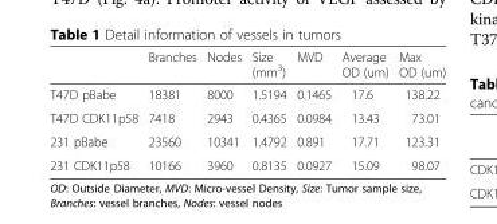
<table><thead><tr><td></td><td>Branches</td><td>Nodes</td><td>Size (mm<sup>3</sup>)</td><td>MVD</td><td>Average OD (um)</td><td>Max OD (um)</td></tr></thead><tbody><tr><td>T47D pBabe</td><td>18381</td><td>8000</td><td>1.5194</td><td>0.1465</td><td>17.6</td><td>138.22</td></tr><tr><td>T47D CDK11p58</td><td>7418</td><td>2943</td><td>0.4365</td><td>0.0984</td><td>13.43</td><td>73.01</td></tr><tr><td>231 pBabe</td><td>23560</td><td>10341</td><td>1.4792</td><td>0.891</td><td>17.71</td><td>123.31</td></tr><tr><td>231 CDK11p58</td><td>10166</td><td>3960</td><td>0.8135</td><td>0.0927</td><td>15.09</td><td>98.07</td></tr></tbody></table>